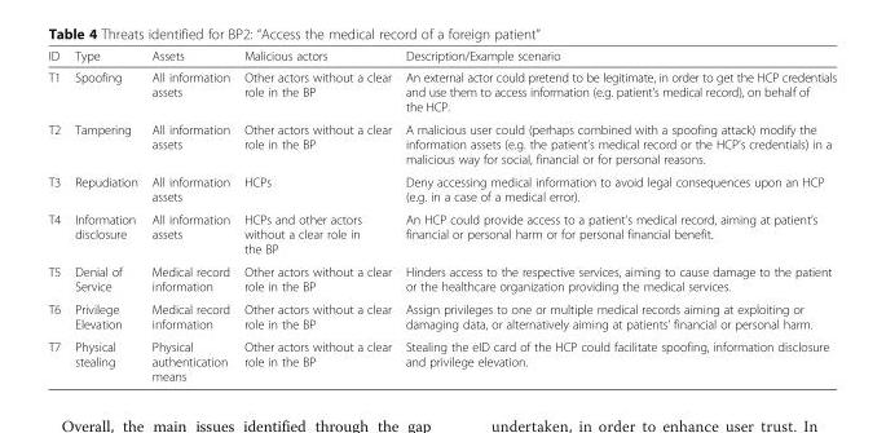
<table><thead><tr><td>ID</td><td>Type</td><td>Assets</td><td>Malicious actors</td><td>Description/Example scenario</td></tr></thead><tbody><tr><td>T1</td><td>Spoofing</td><td>All information assets</td><td>Other actors without a clear role in the BP</td><td>An external actor could pretend to be legitimate, in order to get the HCP credentials and use them to access information (e.g. patient’s medical record), on behalf of the HCP.</td></tr><tr><td>T2</td><td>Tampering</td><td>All information assets</td><td>Other actors without a clear role in the BP</td><td>A malicious user could (perhaps combined with a spoofing attack) modify the information assets (e.g. the patient’s medical record or the HCP’s credentials) in a malicious way for social, financial or for personal reasons.</td></tr><tr><td>T3</td><td>Repudiation</td><td>All information assets</td><td>HCPs</td><td>Deny accessing medical information to avoid legal consequences upon an HCP (e.g. in a case of a medical error).</td></tr><tr><td>T4</td><td>Information disclosure</td><td>All information assets</td><td>HCPs and other actors without a clear role in the BP</td><td>An HCP could provide access to a patient’s medical record, aiming at patient’s financial or personal harm or for personal financial benefit.</td></tr><tr><td>T5</td><td>Denial of Service</td><td>Medical record information</td><td>Other actors without a clear role in the BP</td><td>Hinders access to the respective services, aiming to cause damage to the patient or the healthcare organization providing the medical services.</td></tr><tr><td>T6</td><td>Privilege Elevation</td><td>Medical record information</td><td>Other actors without a clear role in the BP</td><td>Assign privileges to one or multiple medical records aiming at exploiting or damaging data, or alternatively aiming at patients’ financial or personal harm.</td></tr><tr><td>T7</td><td>Physical stealing</td><td>Physical authentication means</td><td>Other actors without a clear role in the BP</td><td>Stealing the eID card of the HCP could facilitate spoofing, information disclosure and privilege elevation.</td></tr></tbody></table>